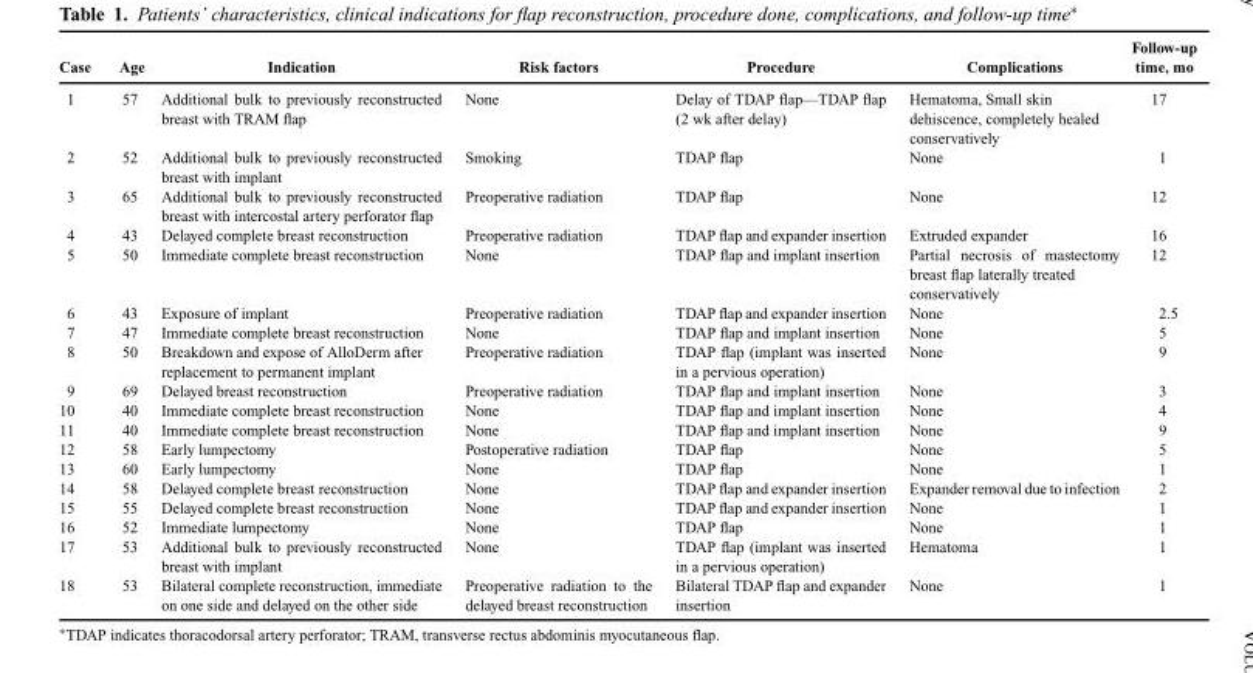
<table><thead><tr><td>Case</td><td>Age</td><td>Indication</td><td>Risk factors</td><td>Procedure</td><td>Complications</td><td>time, mo</td></tr></thead><tbody><tr><td>1</td><td>57</td><td>Additional bulk to previously reconstructed breast with TRAM flap</td><td>None</td><td>Delay of TDAP flap—TDAP flap (2 wk after delay)</td><td>Hematoma, Small skin dehiscence, completely healed conservatively</td><td>17</td></tr><tr><td>2</td><td>52</td><td>Additional bulk to previously reconstructed breast with implant</td><td>Smoking</td><td>TDAP flap</td><td>None</td><td>1</td></tr><tr><td>3</td><td>65</td><td>Additional bulk to previously reconstructed breast with intercostal artery perforator flap</td><td>Preoperative radiation</td><td>TDAP flap</td><td>None</td><td>12</td></tr><tr><td>4</td><td>43</td><td>Delayed complete breast reconstruction</td><td>Preoperative radiation</td><td>TDAP flap and expander insertion</td><td>Extruded expander</td><td>16</td></tr><tr><td>5</td><td>50</td><td>Immediate complete breast reconstruction</td><td>None</td><td>TDAP flap and implant insertion</td><td>Partial necrosis of mastectomy breast flap laterally treated conservatively</td><td>12</td></tr><tr><td>6</td><td>43</td><td>Exposure of implant</td><td>Preoperative radiation</td><td>TDAP flap and expander insertion</td><td>None</td><td>2.5</td></tr><tr><td>7</td><td>47</td><td>Immediate complete breast reconstruction</td><td>None</td><td>TDAP flap and implant insertion</td><td>None</td><td>5</td></tr><tr><td>8</td><td>50</td><td>Breakdown and expose of AlloDerm after replacement to permanent implant</td><td>Preoperative radiation</td><td>TDAP flap (implant was inserted in a pervious operation)</td><td>None</td><td>9</td></tr><tr><td>9</td><td>69</td><td>Delayed breast reconstruction</td><td>Preoperative radiation</td><td>TDAP flap and implant insertion</td><td>None</td><td>3</td></tr><tr><td>10</td><td>40</td><td>Immediate complete breast reconstruction</td><td>None</td><td>TDAP flap and implant insertion</td><td>None</td><td>4</td></tr><tr><td>11</td><td>40</td><td>Immediate complete breast reconstruction</td><td>None</td><td>TDAP flap and implant insertion</td><td>None</td><td>9</td></tr><tr><td>12</td><td>58</td><td>Early lumpectomy</td><td>Postoperative radiation</td><td>TDAP flap</td><td>None</td><td>5</td></tr><tr><td>13</td><td>60</td><td>Early lumpectomy</td><td>None</td><td>TDAP flap</td><td>None</td><td>1</td></tr><tr><td>14</td><td>58</td><td>Delayed complete breast reconstruction</td><td>None</td><td>TDAP flap and expander insertion</td><td>Expander removal due to infection</td><td>2</td></tr><tr><td>15</td><td>55</td><td>Delayed complete breast reconstruction</td><td>None</td><td>TDAP flap and expander insertion</td><td>None</td><td>1</td></tr><tr><td>16</td><td>52</td><td>Immediate lumpectomy</td><td>None</td><td>TDAP flap</td><td>None</td><td>1</td></tr><tr><td>17</td><td>53</td><td>Additional bulk to previously reconstructed breast with implant</td><td>None</td><td>TDAP flap (implant was inserted in a pervious operation)</td><td>Hematoma</td><td>1</td></tr><tr><td>18</td><td>53</td><td>Bilateral complete reconstruction, immediate on one side and delayed on the other side</td><td>Preoperative radiation to the delayed breast reconstruction</td><td>Bilateral TDAP flap and expander insertion</td><td>None</td><td>1</td></tr></tbody></table>